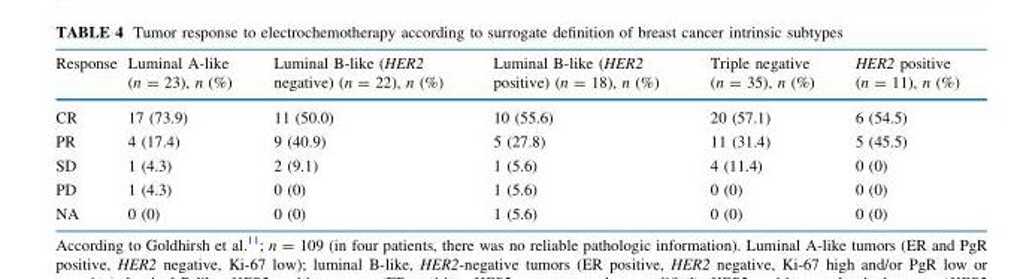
<table><thead><tr><td>Response</td><td>Luminal A-like (n = 23), n (%)</td><td>Luminal B-like (HER2 negative) (n = 22), n (%)</td><td>Luminal B-like (HER2 positive) (n = 18), n (%)</td><td>Triple negative (n = 35), n (%)</td><td>HER2 positive (n = 11), n (%)</td></tr></thead><tbody><tr><td>CR</td><td>17 (73.9)</td><td>11 (50.0)</td><td>10 (55.6)</td><td>20 (57.1)</td><td>6 (54.5)</td></tr><tr><td>PR</td><td>4 (17.4)</td><td>9 (40.9)</td><td>5 (27.8)</td><td>11 (31.4)</td><td>5 (45.5)</td></tr><tr><td>SD</td><td>1 (4.3)</td><td>2 (9.1)</td><td>1 (5.6)</td><td>4 (11.4)</td><td>0 (0)</td></tr><tr><td>PD</td><td>1 (4.3)</td><td>0 (0)</td><td>1 (5.6)</td><td>0 (0)</td><td>0 (0)</td></tr><tr><td>NA</td><td>0 (0)</td><td>0 (0)</td><td>1 (5.6)</td><td>0 (0)</td><td>0 (0)</td></tr></tbody></table>